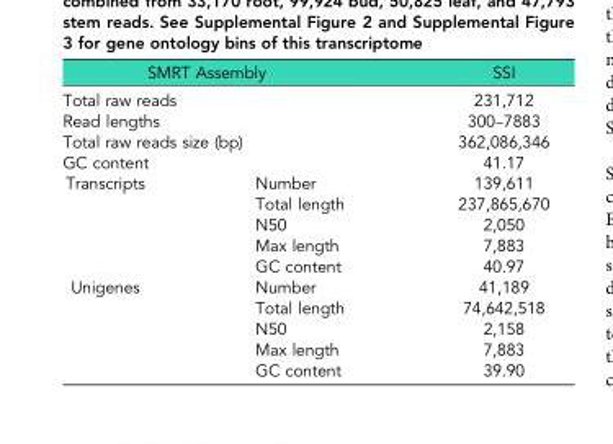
<table><thead><tr><td colspan="2">SMRT Assembly</td><td>SSI</td></tr></thead><tbody><tr><td colspan="2">Total raw reads</td><td>231,712</td></tr><tr><td colspan="2">Read lengths</td><td>300–7883</td></tr><tr><td colspan="2">Total raw reads size (bp)</td><td>362,086,346</td></tr><tr><td colspan="2">GC content</td><td>41.17</td></tr><tr><td rowspan="5">Transcripts</td><td>Number</td><td>139,611</td></tr><tr><td>Total length</td><td>237,865,670</td></tr><tr><td>N50</td><td>2,050</td></tr><tr><td>Max length</td><td>7,883</td></tr><tr><td>GC content</td><td>40.97</td></tr><tr><td rowspan="5">Unigenes</td><td>Number</td><td>41,189</td></tr><tr><td>Total length</td><td>74,642,518</td></tr><tr><td>N50</td><td>2,158</td></tr><tr><td>Max length</td><td>7,883</td></tr><tr><td>GC content</td><td>39.90</td></tr></tbody></table>